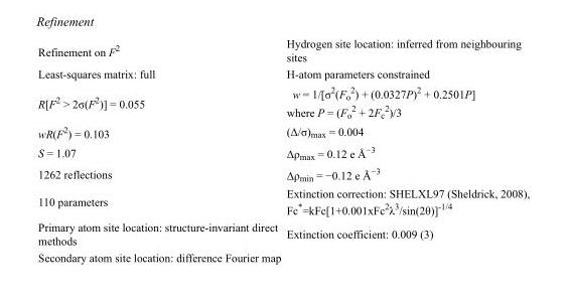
<table><tbody><tr><td>Refinement on F<sup>2</sup></td><td>Hydrogen site location: inferred from neighbouring sites</td></tr><tr><td>Least-squares matrix: full</td><td>H-atom parameters constrained</td></tr><tr><td>R[F<sup>2</sup> &gt; 2σ(F<sup>2</sup>)] = 0.055</td><td>w = 1/[σ<sup>2</sup>(F<sub>o</sub> <sup>2</sup>) + (0.0327P)<sup>2</sup> + 0.2501P] where P = (F<sub>o</sub> <sup>2</sup> + 2F<sub>c</sub> <sup>2</sup>)/3</td></tr><tr><td>wR(F<sup>2</sup>) = 0.103</td><td>(Δ/σ)<sub>max</sub> = 0.004</td></tr><tr><td>S = 1.07</td><td>Δρ<sub>max</sub> = 0.12 e Å<sup>−3</sup></td></tr><tr><td>1262 reflections</td><td>Δρ<sub>min</sub> = −0.12 e Å<sup>−3</sup></td></tr><tr><td>110 parameters</td><td>Extinction correction: SHELXL97 (Sheldrick, 2008), Fc*=kFc[1+0.001xFc<sup>2</sup>λ<sup>3</sup>/sin(2θ)]<sup>-1/4</sup></td></tr><tr><td>Primary atom site location: structure-invariant direct methods</td><td>Extinction coefficient: 0.009 (3)</td></tr><tr><td>Secondary atom site location: difference Fourier map</td><td></td></tr></tbody></table>